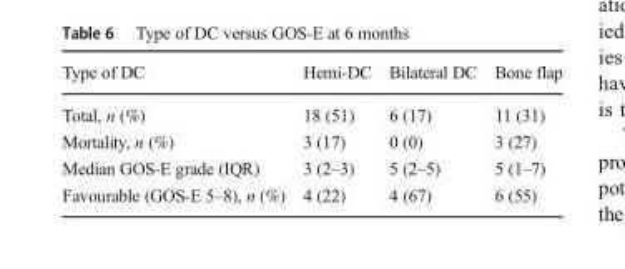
<table><thead><tr><td>Type of DC</td><td>Hemi-DC</td><td>Bilateral DC</td><td>Bone flap</td></tr></thead><tbody><tr><td>Total, n (%)</td><td>18 (51)</td><td>6 (17)</td><td>11 (31)</td></tr><tr><td>Mortality, n (%)</td><td>3 (17)</td><td>0 (0)</td><td>3 (27)</td></tr><tr><td>Median GOS-E grade (IQR)</td><td>3 (2–3)</td><td>5 (2–5)</td><td>5 (1–7)</td></tr><tr><td>Favourable (GOS-E 5–8), n (%)</td><td>4 (22)</td><td>4 (67)</td><td>6 (55)</td></tr></tbody></table>